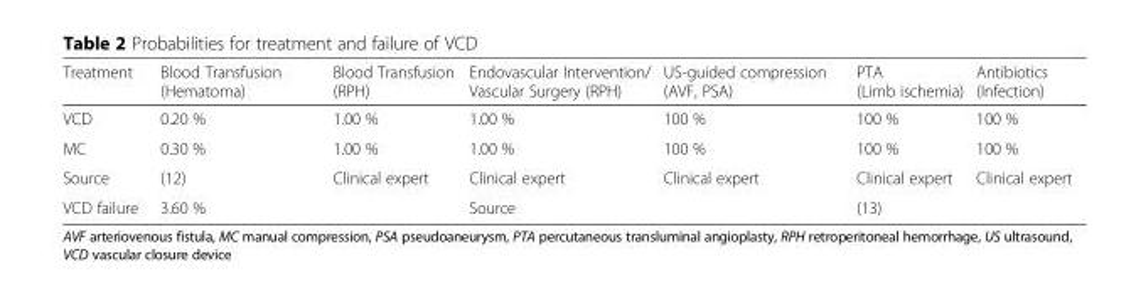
<table><thead><tr><td>Treatment</td><td>Blood Transfusion (Hematoma)</td><td>Blood Transfusion (RPH)</td><td>Endovascular Intervention/ Vascular Surgery (RPH)</td><td>US-guided compression (AVF, PSA)</td><td>PTA (Limb ischemia)</td><td>Antibiotics (Infection)</td></tr></thead><tbody><tr><td>VCD</td><td>0.20 %</td><td>1.00 %</td><td>1.00 %</td><td>100 %</td><td>100 %</td><td>100 %</td></tr><tr><td>MC</td><td>0.30 %</td><td>1.00 %</td><td>1.00 %</td><td>100 %</td><td>100 %</td><td>100 %</td></tr><tr><td>Source</td><td>(12)</td><td>Clinical expert</td><td>Clinical expert</td><td>Clinical expert</td><td>Clinical expert</td><td>Clinical expert</td></tr><tr><td>VCD failure</td><td colspan="2">3.60 %</td><td colspan="2">Source</td><td colspan="2">(13)</td></tr></tbody></table>